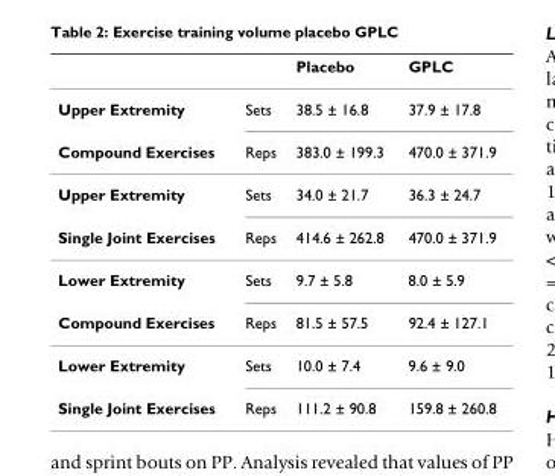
<table><thead><tr><td></td><td></td><td>Placebo</td><td>GPLC</td></tr></thead><tbody><tr><td>Upper Extremity</td><td>Sets</td><td>38.5 ± 16.8</td><td>37.9 ± 17.8</td></tr><tr><td>Compound Exercises</td><td>Reps</td><td>383.0 ± 199.3</td><td>470.0 ± 371.9</td></tr><tr><td>Upper Extremity</td><td>Sets</td><td>34.0 ± 21.7</td><td>36.3 ± 24.7</td></tr><tr><td>Single Joint Exercises</td><td>Reps</td><td>414.6 ± 262.8</td><td>470.0 ± 371.9</td></tr><tr><td>Lower Extremity</td><td>Sets</td><td>9.7 ± 5.8</td><td>8.0 ± 5.9</td></tr><tr><td>Compound Exercises</td><td>Reps</td><td>81.5 ± 57.5</td><td>92.4 ± 127.1</td></tr><tr><td>Lower Extremity</td><td>Sets</td><td>10.0 ± 7.4</td><td>9.6 ± 9.0</td></tr><tr><td>Single Joint Exercises</td><td>Reps</td><td>111.2 ± 90.8</td><td>159.8 ± 260.8</td></tr></tbody></table>